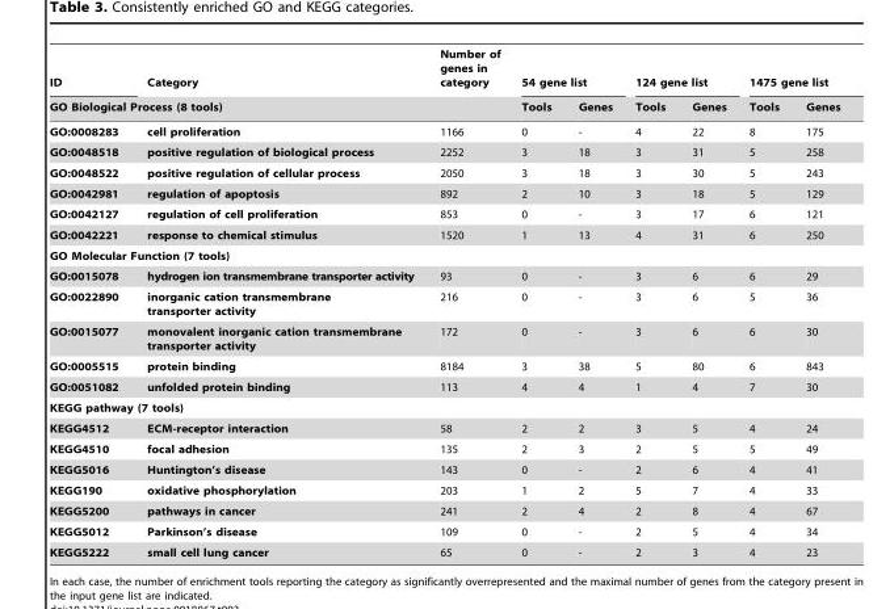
<table><thead><tr><td>ID</td><td>Category</td><td>Number of genes in category</td><td colspan="2">54 gene list</td><td colspan="2">124 gene list</td><td colspan="2">1475 gene list</td></tr><tr><td colspan="3">GO Biological Process (8 tools)</td><td>Tools</td><td>Genes</td><td>Tools</td><td>Genes</td><td>Tools</td><td>Genes</td></tr></thead><tbody><tr><td>GO:0008283</td><td>cell proliferation</td><td>1166</td><td>0</td><td>-</td><td>4</td><td>22</td><td>8</td><td>175</td></tr><tr><td>GO:0048518</td><td>positive regulation of biological process</td><td>2252</td><td>3</td><td>18</td><td>3</td><td>31</td><td>5</td><td>258</td></tr><tr><td>GO:0048522</td><td>positive regulation of cellular process</td><td>2050</td><td>3</td><td>18</td><td>3</td><td>30</td><td>5</td><td>243</td></tr><tr><td>GO:0042981</td><td>regulation of apoptosis</td><td>892</td><td>2</td><td>10</td><td>3</td><td>18</td><td>5</td><td>129</td></tr><tr><td>GO:0042127</td><td>regulation of cell proliferation</td><td>853</td><td>0</td><td>-</td><td>3</td><td>17</td><td>6</td><td>121</td></tr><tr><td>GO:0042221</td><td>response to chemical stimulus</td><td>1520</td><td>1</td><td>13</td><td>4</td><td>31</td><td>6</td><td>250</td></tr><tr><td colspan="9">GO Molecular Function (7 tools)</td></tr><tr><td>GO:0015078</td><td>hydrogen ion transmembrane transporter activity</td><td>93</td><td>0</td><td>-</td><td>3</td><td>6</td><td>6</td><td>29</td></tr><tr><td>GO:0022890</td><td>inorganic cation transmembrane transporter activity</td><td>216</td><td>0</td><td>-</td><td>3</td><td>6</td><td>5</td><td>36</td></tr><tr><td>GO:0015077</td><td>monovalent inorganic cation transmembrane transporter activity</td><td>172</td><td>0</td><td>-</td><td>3</td><td>6</td><td>6</td><td>30</td></tr><tr><td>GO:0005515</td><td>protein binding</td><td>8184</td><td>3</td><td>38</td><td>5</td><td>80</td><td>6</td><td>843</td></tr><tr><td>GO:0051082</td><td>unfolded protein binding</td><td>113</td><td>4</td><td>4</td><td>1</td><td>4</td><td>7</td><td>30</td></tr><tr><td colspan="9">KEGG pathway (7 tools)</td></tr><tr><td>KEGG4512</td><td>ECM-receptor interaction</td><td>58</td><td>2</td><td>2</td><td>3</td><td>5</td><td>4</td><td>24</td></tr><tr><td>KEGG4510</td><td>focal adhesion</td><td>135</td><td>2</td><td>3</td><td>2</td><td>5</td><td>5</td><td>49</td></tr><tr><td>KEGG5016</td><td>Huntington’s disease</td><td>143</td><td>0</td><td>-</td><td>2</td><td>6</td><td>4</td><td>41</td></tr><tr><td>KEGG190</td><td>oxidative phosphorylation</td><td>203</td><td>1</td><td>2</td><td>5</td><td>7</td><td>4</td><td>33</td></tr><tr><td>KEGG5200</td><td>pathways in cancer</td><td>241</td><td>2</td><td>4</td><td>2</td><td>8</td><td>4</td><td>67</td></tr><tr><td>KEGG5012</td><td>Parkinson’s disease</td><td>109</td><td>0</td><td>-</td><td>2</td><td>5</td><td>4</td><td>34</td></tr><tr><td>KEGG5222</td><td>small cell lung cancer</td><td>65</td><td>0</td><td>-</td><td>2</td><td>3</td><td>4</td><td>23</td></tr></tbody></table>